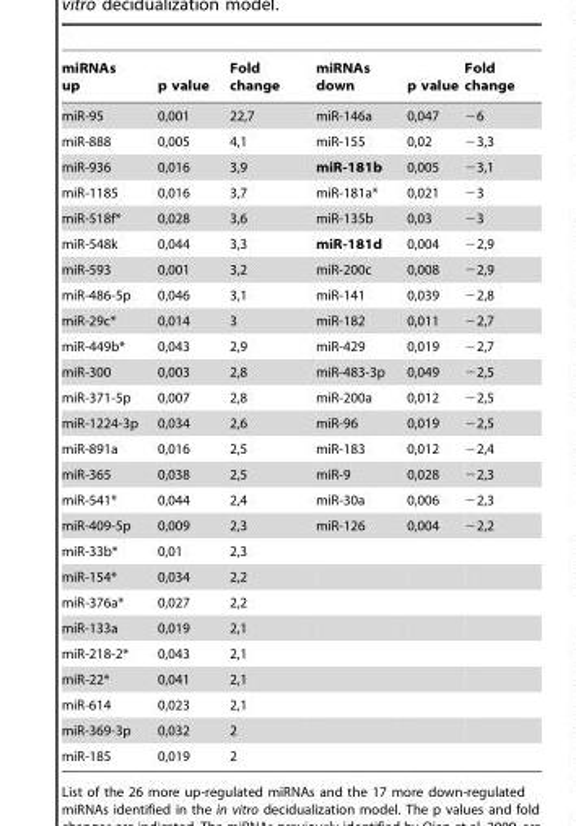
<table><thead><tr><td>miRNAs up</td><td>p value</td><td>Fold change</td><td>miRNAs down</td><td>p value</td><td>Fold change</td></tr></thead><tbody><tr><td>miR-95</td><td>0,001</td><td>22,7</td><td>miR-146a</td><td>0,047</td><td>−6</td></tr><tr><td>miR-888</td><td>0,005</td><td>4,1</td><td>miR-155</td><td>0,02</td><td>−3,3</td></tr><tr><td>miR-936</td><td>0,016</td><td>3,9</td><td>miR-181b</td><td>0,005</td><td>−3,1</td></tr><tr><td>miR-1185</td><td>0,016</td><td>3,7</td><td>miR-181a*</td><td>0,021</td><td>−3</td></tr><tr><td>miR-518f*</td><td>0,028</td><td>3,6</td><td>miR-135b</td><td>0,03</td><td>−3</td></tr><tr><td>miR-548k</td><td>0,044</td><td>3,3</td><td>miR-181d</td><td>0,004</td><td>−2,9</td></tr><tr><td>miR-593</td><td>0,001</td><td>3,2</td><td>miR-200c</td><td>0,008</td><td>−2,9</td></tr><tr><td>miR-486-5p</td><td>0,046</td><td>3,1</td><td>miR-141</td><td>0,039</td><td>−2,8</td></tr><tr><td>miR-29c*</td><td>0,014</td><td>3</td><td>miR-182</td><td>0,011</td><td>−2,7</td></tr><tr><td>miR-449b*</td><td>0,043</td><td>2,9</td><td>miR-429</td><td>0,019</td><td>−2,7</td></tr><tr><td>miR-300</td><td>0,003</td><td>2,8</td><td>miR-483-3p</td><td>0,049</td><td>−2,5</td></tr><tr><td>miR-371-5p</td><td>0,007</td><td>2,8</td><td>miR-200a</td><td>0,012</td><td>−2,5</td></tr><tr><td>miR-1224-3p</td><td>0,034</td><td>2,6</td><td>miR-96</td><td>0,019</td><td>−2,5</td></tr><tr><td>miR-891a</td><td>0,016</td><td>2,5</td><td>miR-183</td><td>0,012</td><td>−2,4</td></tr><tr><td>miR-365</td><td>0,038</td><td>2,5</td><td>miR-9</td><td>0,028</td><td>−2,3</td></tr><tr><td>miR-541*</td><td>0,044</td><td>2,4</td><td>miR-30a</td><td>0,006</td><td>−2,3</td></tr><tr><td>miR-409-5p</td><td>0,009</td><td>2,3</td><td>miR-126</td><td>0,004</td><td>−2,2</td></tr><tr><td>miR-33b*</td><td>0,01</td><td>2,3</td><td></td><td></td><td></td></tr><tr><td>miR-154*</td><td>0,034</td><td>2,2</td><td></td><td></td><td></td></tr><tr><td>miR-376a*</td><td>0,027</td><td>2,2</td><td></td><td></td><td></td></tr><tr><td>miR-133a</td><td>0,019</td><td>2,1</td><td></td><td></td><td></td></tr><tr><td>miR-218-2*</td><td>0,043</td><td>2,1</td><td></td><td></td><td></td></tr><tr><td>miR-22*</td><td>0,041</td><td>2,1</td><td></td><td></td><td></td></tr><tr><td>miR-614</td><td>0,023</td><td>2,1</td><td></td><td></td><td></td></tr><tr><td>miR-369-3p</td><td>0,032</td><td>2</td><td></td><td></td><td></td></tr><tr><td>miR-185</td><td>0,019</td><td>2</td><td></td><td></td><td></td></tr></tbody></table>